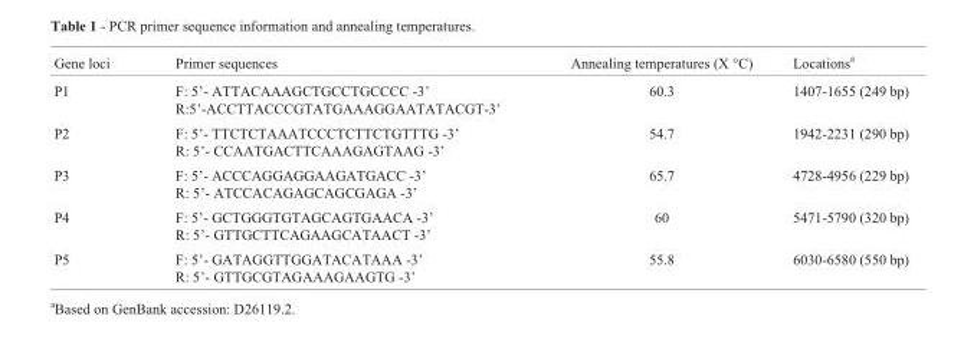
<table><thead><tr><td>Gene loci</td><td>Primer sequences</td><td>Annealing temperatures (X °C)</td><td>Locations<sup>a</sup></td></tr></thead><tbody><tr><td>P1</td><td>F: 5’- ATTACAAAGCTGCCTGCCCC -3’ R:5’-ACCTTACCCGTATGAAAGGAATATACGT-3’</td><td>60.3</td><td>1407-1655 (249 bp)</td></tr><tr><td>P2</td><td>F: 5’- TTCTCTAAATCCCTCTTCTGTTTG -3’ R: 5’- CCAATGACTTCAAAGAGTAAG -3’</td><td>54.7</td><td>1942-2231 (290 bp)</td></tr><tr><td>P3</td><td>F: 5’- ACCCAGGAGGAAGATGACC -3’ R: 5’- ATCCACAGAGCAGCGAGA -3’</td><td>65.7</td><td>4728-4956 (229 bp)</td></tr><tr><td>P4</td><td>F: 5’- GCTGGGTGTAGCAGTGAACA -3’ R: 5’- GTTGCTTCAGAAGCATAACT -3’</td><td>60</td><td>5471-5790 (320 bp)</td></tr><tr><td>P5</td><td>F: 5’- GATAGGTTGGATACATAAA -3’ R: 5’- GTTGCGTAGAAAGAAGTG -3’</td><td>55.8</td><td>6030-6580 (550 bp)</td></tr></tbody></table>